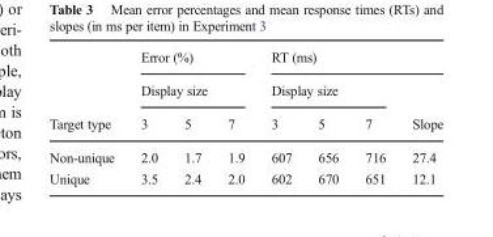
<table><thead><tr><td rowspan="3">Target type</td><td rowspan="2" colspan="3">Error (%) Display size</td><td colspan="4">RT (ms)</td></tr><tr><td colspan="3">Display size</td><td rowspan="2">Slope</td></tr><tr><td>3</td><td>5</td><td>7</td><td>3</td><td>5</td><td>7</td></tr></thead><tbody><tr><td>Non-unique</td><td>2.0</td><td>1.7</td><td>1.9</td><td>607</td><td>656</td><td>716</td><td>27.4</td></tr><tr><td>Unique</td><td>3.5</td><td>2.4</td><td>2.0</td><td>602</td><td>670</td><td>651</td><td>12.1</td></tr></tbody></table>